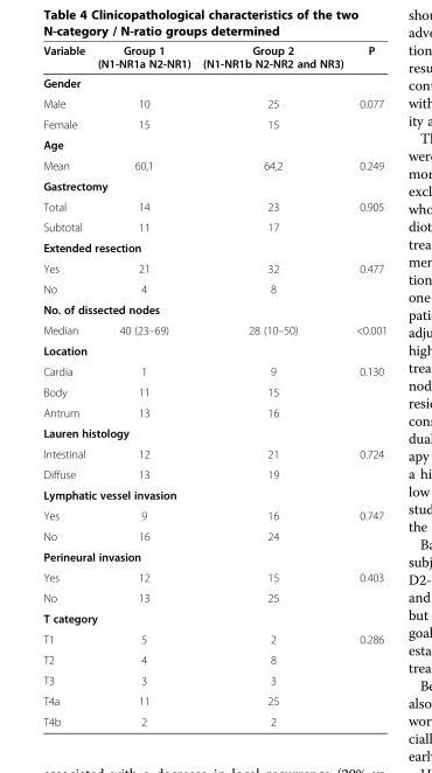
<table><thead><tr><td>Variable</td><td>Group 1 (N1-NR1a N2-NR1)</td><td>Group 2 (N1-NR1b N2-NR2 and NR3)</td><td>P</td></tr></thead><tbody><tr><td colspan="4">Gender</td></tr><tr><td>Male</td><td>10</td><td>25</td><td>0.077</td></tr><tr><td>Female</td><td>15</td><td>15</td><td></td></tr><tr><td colspan="4">Age</td></tr><tr><td>Mean</td><td>60,1</td><td>64,2</td><td>0.249</td></tr><tr><td colspan="4">Gastrectomy</td></tr><tr><td>Total</td><td>14</td><td>23</td><td>0.905</td></tr><tr><td>Subtotal</td><td>11</td><td>17</td><td></td></tr><tr><td colspan="4">Extended resection</td></tr><tr><td>Yes</td><td>21</td><td>32</td><td>0.477</td></tr><tr><td>No</td><td>4</td><td>8</td><td></td></tr><tr><td colspan="4">No. of dissected nodes</td></tr><tr><td>Median</td><td>40 (23–69)</td><td>28 (10–50)</td><td>&lt;0.001</td></tr><tr><td colspan="4">Location</td></tr><tr><td>Cardia</td><td>1</td><td>9</td><td>0.130</td></tr><tr><td>Body</td><td>11</td><td>15</td><td></td></tr><tr><td>Antrum</td><td>13</td><td>16</td><td></td></tr><tr><td colspan="4">Lauren histology</td></tr><tr><td>Intestinal</td><td>12</td><td>21</td><td>0.724</td></tr><tr><td>Diffuse</td><td>13</td><td>19</td><td></td></tr><tr><td colspan="4">Lymphatic vessel invasion</td></tr><tr><td>Yes</td><td>9</td><td>16</td><td>0.747</td></tr><tr><td>No</td><td>16</td><td>24</td><td></td></tr><tr><td colspan="4">Perineural invasion</td></tr><tr><td>Yes</td><td>12</td><td>15</td><td>0.403</td></tr><tr><td>No</td><td>13</td><td>25</td><td></td></tr><tr><td colspan="4">T category</td></tr><tr><td>T1</td><td>5</td><td>2</td><td>0.286</td></tr><tr><td>T2</td><td>4</td><td>8</td><td></td></tr><tr><td>T3</td><td>3</td><td>3</td><td></td></tr><tr><td>T4a</td><td>11</td><td>25</td><td></td></tr><tr><td>T4b</td><td>2</td><td>2</td><td></td></tr></tbody></table>